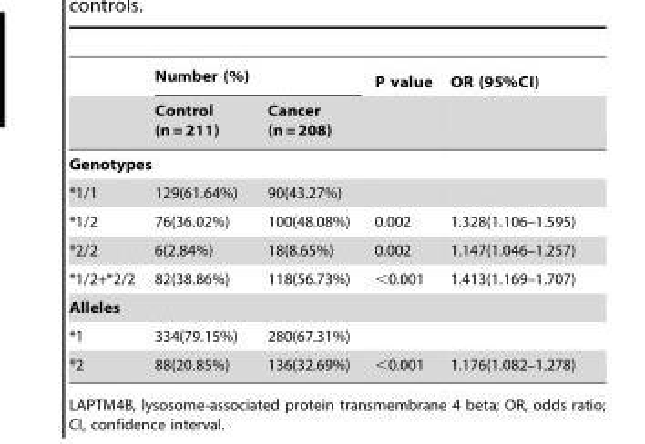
<table><thead><tr><td rowspan="2"></td><td colspan="2">Number (%)</td><td rowspan="2">P value</td><td rowspan="2">OR (95%CI)</td></tr><tr><td>Control (n = 211)</td><td>Cancer (n = 208)</td></tr></thead><tbody><tr><td colspan="5">Genotypes</td></tr><tr><td>*1/1</td><td>129(61.64%)</td><td>90(43.27%)</td><td></td><td></td></tr><tr><td>*1/2</td><td>76(36.02%)</td><td>100(48.08%)</td><td>0.002</td><td>1.328(1.106–1.595)</td></tr><tr><td>*2/2</td><td>6(2.84%)</td><td>18(8.65%)</td><td>0.002</td><td>1.147(1.046–1.257)</td></tr><tr><td>*1/2+*2/2</td><td>82(38.86%)</td><td>118(56.73%)</td><td>&lt;0.001</td><td>1.413(1.169–1.707)</td></tr><tr><td colspan="5">Alleles</td></tr><tr><td>*1</td><td>334(79.15%)</td><td>280(67.31%)</td><td></td><td></td></tr><tr><td>*2</td><td>88(20.85%)</td><td>136(32.69%)</td><td>&lt;0.001</td><td>1.176(1.082–1.278)</td></tr></tbody></table>